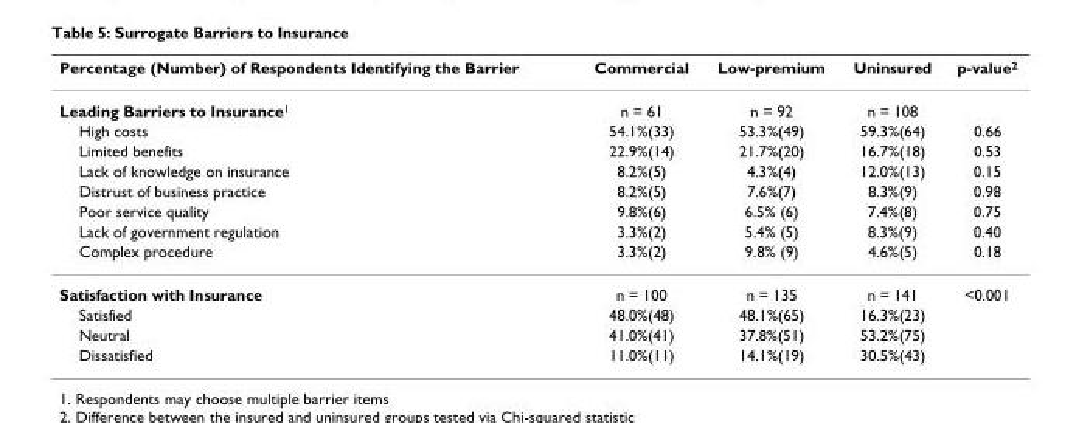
<table><thead><tr><td>Percentage (Number) of Respondents Identifying the Barrier</td><td>Commercial</td><td>Low-premium</td><td>Uninsured</td><td>p-value<sup>2</sup></td></tr></thead><tbody><tr><td>Leading Barriers to Insurance<sup>1</sup></td><td>n = 61</td><td>n = 92</td><td>n = 108</td><td></td></tr><tr><td>High costs</td><td>54.1%(33)</td><td>53.3%(49)</td><td>59.3%(64)</td><td>0.66</td></tr><tr><td>Limited benefits</td><td>22.9%(14)</td><td>21.7%(20)</td><td>16.7%(18)</td><td>0.53</td></tr><tr><td>Lack of knowledge on insurance</td><td>8.2%(5)</td><td>4.3%(4)</td><td>12.0%(13)</td><td>0.15</td></tr><tr><td>Distrust of business practice</td><td>8.2%(5)</td><td>7.6%(7)</td><td>8.3%(9)</td><td>0.98</td></tr><tr><td>Poor service quality</td><td>9.8%(6)</td><td>6.5% (6)</td><td>7.4%(8)</td><td>0.75</td></tr><tr><td>Lack of government regulation</td><td>3.3%(2)</td><td>5.4% (5)</td><td>8.3%(9)</td><td>0.40</td></tr><tr><td>Complex procedure</td><td>3.3%(2)</td><td>9.8% (9)</td><td>4.6%(5)</td><td>0.18</td></tr><tr><td>Satisfaction with Insurance</td><td>n = 100</td><td>n = 135</td><td>n = 141</td><td>&lt;0.001</td></tr><tr><td>Satisfied</td><td>48.0%(48)</td><td>48.1%(65)</td><td>16.3%(23)</td><td></td></tr><tr><td>Neutral</td><td>41.0%(41)</td><td>37.8%(51)</td><td>53.2%(75)</td><td></td></tr><tr><td>Dissatisfied</td><td>11.0%(11)</td><td>14.1%(19)</td><td>30.5%(43)</td><td></td></tr></tbody></table>